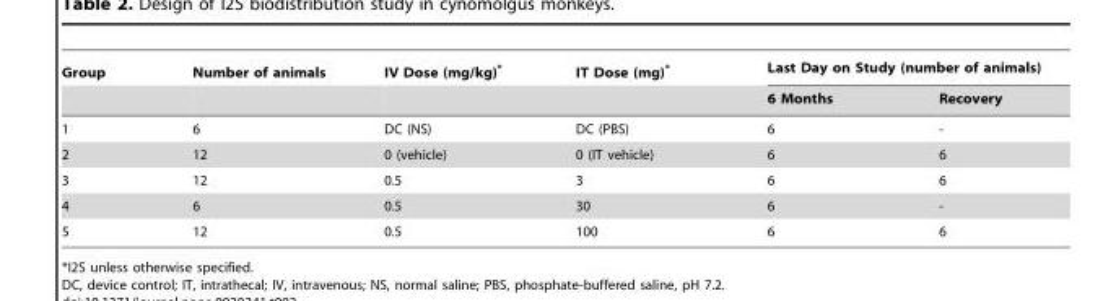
<table><thead><tr><td rowspan="2">Group</td><td rowspan="2">Number of animals</td><td rowspan="2">IV Dose (mg/kg)*</td><td rowspan="2">IT Dose (mg)*</td><td colspan="2">Last Day on Study (number of animals)</td></tr><tr><td>6 Months</td><td>Recovery</td></tr></thead><tbody><tr><td>1</td><td>6</td><td>DC (NS)</td><td>DC (PBS)</td><td>6</td><td>-</td></tr><tr><td>2</td><td>12</td><td>0 (vehicle)</td><td>0 (IT vehicle)</td><td>6</td><td>6</td></tr><tr><td>3</td><td>12</td><td>0.5</td><td>3</td><td>6</td><td>6</td></tr><tr><td>4</td><td>6</td><td>0.5</td><td>30</td><td>6</td><td>-</td></tr><tr><td>5</td><td>12</td><td>0.5</td><td>100</td><td>6</td><td>6</td></tr></tbody></table>